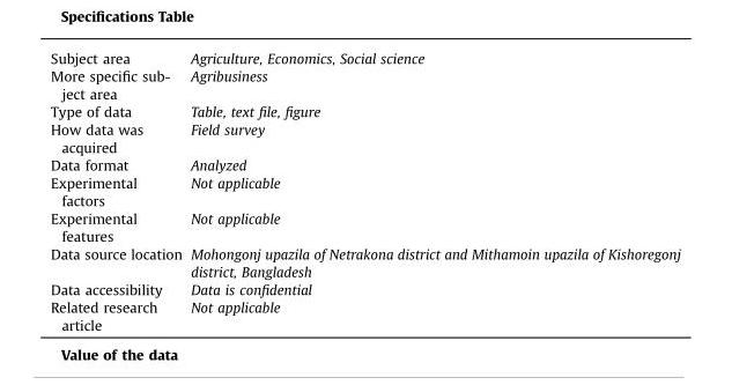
<table><tbody><tr><td>Subject area</td><td>Agriculture, Economics, Social science</td></tr><tr><td>More specific sub- ject area</td><td>Agribusiness</td></tr><tr><td>Type of data</td><td>Table, text file, figure</td></tr><tr><td>How data was acquired</td><td>Field survey</td></tr><tr><td>Data format</td><td>Analyzed</td></tr><tr><td>Experimental factors</td><td>Not applicable</td></tr><tr><td>Experimental features</td><td>Not applicable</td></tr><tr><td>Data source location</td><td>Mohongonj upazila of Netrakona district and Mithamoin upazila of Kishoregonj district, Bangladesh</td></tr><tr><td>Data accessibility</td><td>Data is confidential</td></tr><tr><td>Related research article</td><td>Not applicable</td></tr></tbody></table>